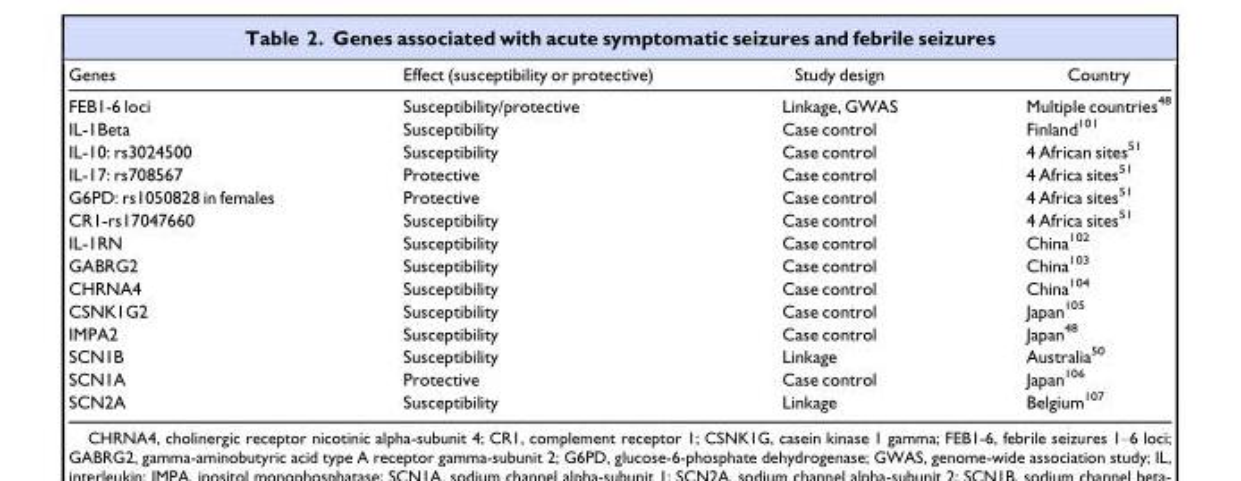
<table><thead><tr><td>Genes</td><td>Effect (susceptibility or protective)</td><td>Study design</td><td>Country</td></tr></thead><tbody><tr><td>FEB1-6 loci</td><td>Susceptibility/protective</td><td>Linkage, GWAS</td><td>Multiple countries<sup>48</sup></td></tr><tr><td>IL-1Beta</td><td>Susceptibility</td><td>Case control</td><td>Finland<sup>101</sup></td></tr><tr><td>IL-10: rs3024500</td><td>Susceptibility</td><td>Case control</td><td>4 African sites<sup>51</sup></td></tr><tr><td>IL-17: rs708567</td><td>Protective</td><td>Case control</td><td>4 Africa sites<sup>51</sup></td></tr><tr><td>G6PD: rs1050828 in females</td><td>Protective</td><td>Case control</td><td>4 Africa sites<sup>51</sup></td></tr><tr><td>CR1-rs17047660</td><td>Susceptibility</td><td>Case control</td><td>4 Africa sites<sup>51</sup></td></tr><tr><td>IL-1RN</td><td>Susceptibility</td><td>Case control</td><td>China<sup>102</sup></td></tr><tr><td>GABRG2</td><td>Susceptibility</td><td>Case control</td><td>China<sup>103</sup></td></tr><tr><td>CHRNA4</td><td>Susceptibility</td><td>Case control</td><td>China<sup>104</sup></td></tr><tr><td>CSNK1G2</td><td>Susceptibility</td><td>Case control</td><td>Japan<sup>105</sup></td></tr><tr><td>IMPA2</td><td>Susceptibility</td><td>Case control</td><td>Japan<sup>48</sup></td></tr><tr><td>SCN1B</td><td>Susceptibility</td><td>Linkage</td><td>Australia<sup>50</sup></td></tr><tr><td>SCN1A</td><td>Protective</td><td>Case control</td><td>Japan<sup>106</sup></td></tr><tr><td>SCN2A</td><td>Susceptibility</td><td>Linkage</td><td>Belgium<sup>107</sup></td></tr></tbody></table>